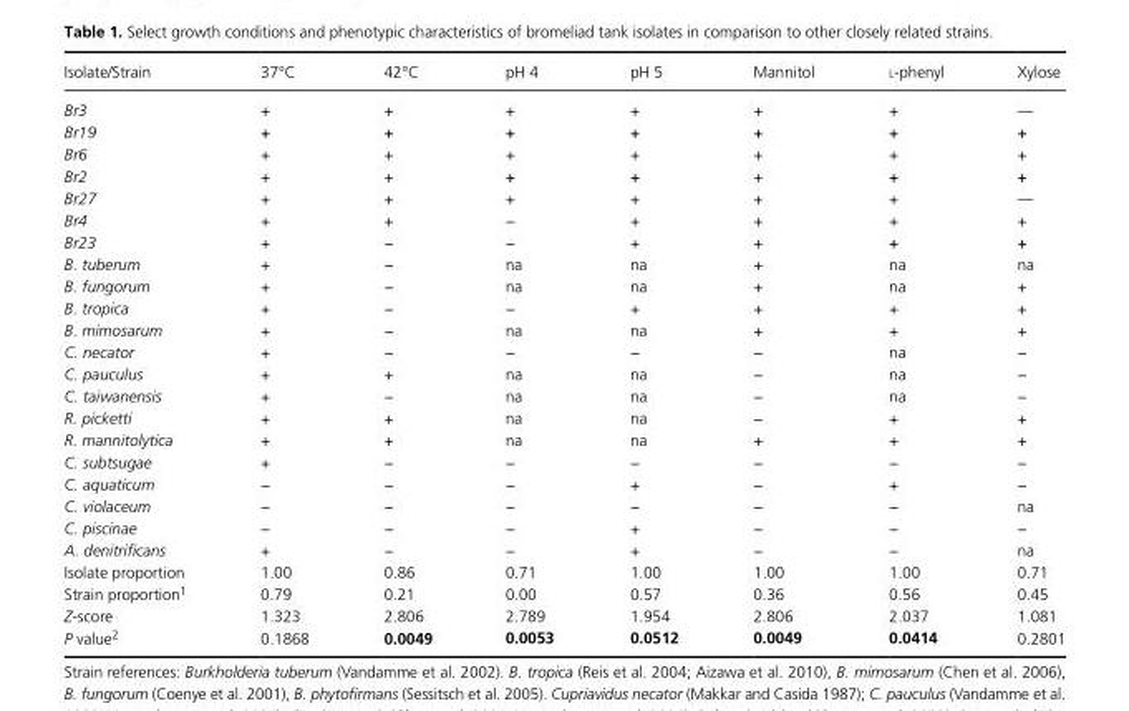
<table><thead><tr><td>Isolate/Strain</td><td>37°C</td><td>42°C</td><td>pH 4</td><td>pH 5</td><td>Mannitol</td><td>l- phenyl</td><td>Xylose</td></tr></thead><tbody><tr><td>Br3</td><td>+</td><td>+</td><td>+</td><td>+</td><td>+</td><td>+</td><td>—</td></tr><tr><td>Br19</td><td>+</td><td>+</td><td>+</td><td>+</td><td>+</td><td>+</td><td>+</td></tr><tr><td>Br6</td><td>+</td><td>+</td><td>+</td><td>+</td><td>+</td><td>+</td><td>+</td></tr><tr><td>Br2</td><td>+</td><td>+</td><td>+</td><td>+</td><td>+</td><td>+</td><td>+</td></tr><tr><td>Br27</td><td>+</td><td>+</td><td>+</td><td>+</td><td>+</td><td>+</td><td>—</td></tr><tr><td>Br4</td><td>+</td><td>+</td><td>−</td><td>+</td><td>+</td><td>+</td><td>+</td></tr><tr><td>Br23</td><td>+</td><td>−</td><td>−</td><td>+</td><td>+</td><td>+</td><td>+</td></tr><tr><td>B. tuberum</td><td>+</td><td>−</td><td>na</td><td>na</td><td>+</td><td>na</td><td>na</td></tr><tr><td>B. fungorum</td><td>+</td><td>−</td><td>na</td><td>na</td><td>+</td><td>na</td><td>+</td></tr><tr><td>B. tropica</td><td>+</td><td>−</td><td>−</td><td>+</td><td>+</td><td>+</td><td>+</td></tr><tr><td>B. mimosarum</td><td>+</td><td>−</td><td>na</td><td>na</td><td>+</td><td>+</td><td>+</td></tr><tr><td>C. necator</td><td>+</td><td>−</td><td>−</td><td>−</td><td>−</td><td>na</td><td>−</td></tr><tr><td>C. pauculus</td><td>+</td><td>+</td><td>na</td><td>na</td><td>−</td><td>na</td><td>−</td></tr><tr><td>C. taiwanensis</td><td>+</td><td>−</td><td>na</td><td>na</td><td>−</td><td>na</td><td>−</td></tr><tr><td>R. picketti</td><td>+</td><td>+</td><td>na</td><td>na</td><td>−</td><td>+</td><td>+</td></tr><tr><td>R. mannitolytica</td><td>+</td><td>+</td><td>na</td><td>na</td><td>+</td><td>+</td><td>+</td></tr><tr><td>C. subtsugae</td><td>+</td><td>−</td><td>−</td><td>−</td><td>−</td><td>−</td><td>−</td></tr><tr><td>C. aquaticum</td><td>−</td><td>−</td><td>−</td><td>+</td><td>−</td><td>+</td><td>−</td></tr><tr><td>C. violaceum</td><td>−</td><td>−</td><td>−</td><td>−</td><td>−</td><td>−</td><td>na</td></tr><tr><td>C. piscinae</td><td>−</td><td>−</td><td>−</td><td>+</td><td>−</td><td>−</td><td>−</td></tr><tr><td>A. denitrificans</td><td>+</td><td>−</td><td>−</td><td>+</td><td>−</td><td>−</td><td>na</td></tr><tr><td>Isolate proportion</td><td>1.00</td><td>0.86</td><td>0.71</td><td>1.00</td><td>1.00</td><td>1.00</td><td>0.71</td></tr><tr><td>Strain proportion1</td><td>0.79</td><td>0.21</td><td>0.00</td><td>0.57</td><td>0.36</td><td>0.56</td><td>0.45</td></tr><tr><td>Z- score</td><td>1.323</td><td>2.806</td><td>2.789</td><td>1.954</td><td>2.806</td><td>2.037</td><td>1.081</td></tr><tr><td>P value2</td><td>0.1868</td><td>0.0049</td><td>0.0053</td><td>0.0512</td><td>0.0049</td><td>0.0414</td><td>0.2801</td></tr></tbody></table>